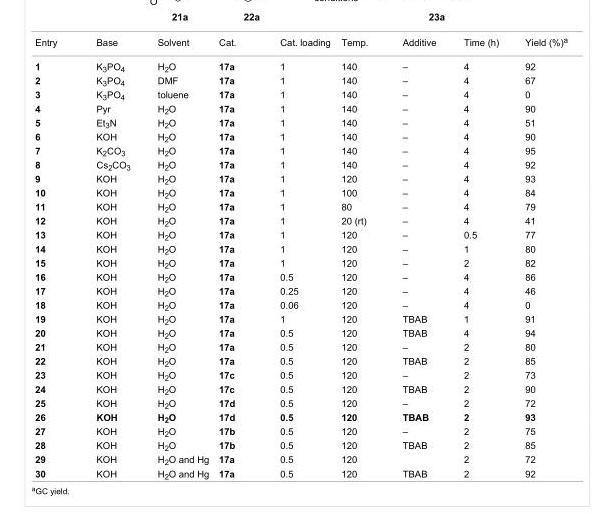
<table><tbody><tr><td>Entry</td><td>Base</td><td>Solvent</td><td>Cat.</td><td>Cat. loading</td><td>Temp.</td><td>Additive</td><td>Time (h)</td><td>Yield (%)<sup>a</sup></td></tr><tr><td>1</td><td>K<sub>3</sub>PO<sub>4</sub></td><td>H<sub>2</sub>O</td><td>17a</td><td>1</td><td>140</td><td>–</td><td>4</td><td>92</td></tr><tr><td>2</td><td>K<sub>3</sub>PO<sub>4</sub></td><td>DMF</td><td>17a</td><td>1</td><td>140</td><td>–</td><td>4</td><td>67</td></tr><tr><td>3</td><td>K<sub>3</sub>PO<sub>4</sub></td><td>toluene</td><td>17a</td><td>1</td><td>140</td><td>–</td><td>4</td><td>0</td></tr><tr><td>4</td><td>Pyr</td><td>H<sub>2</sub>O</td><td>17a</td><td>1</td><td>140</td><td>–</td><td>4</td><td>90</td></tr><tr><td>5</td><td>Et<sub>3</sub>N</td><td>H<sub>2</sub>O</td><td>17a</td><td>1</td><td>140</td><td>–</td><td>4</td><td>51</td></tr><tr><td>6</td><td>KOH</td><td>H<sub>2</sub>O</td><td>17a</td><td>1</td><td>140</td><td>–</td><td>4</td><td>90</td></tr><tr><td>7</td><td>K<sub>2</sub>CO<sub>3</sub></td><td>H<sub>2</sub>O</td><td>17a</td><td>1</td><td>140</td><td>–</td><td>4</td><td>95</td></tr><tr><td>8</td><td>Cs<sub>2</sub>CO<sub>3</sub></td><td>H<sub>2</sub>O</td><td>17a</td><td>1</td><td>140</td><td>–</td><td>4</td><td>92</td></tr><tr><td>9</td><td>KOH</td><td>H<sub>2</sub>O</td><td>17a</td><td>1</td><td>120</td><td>–</td><td>4</td><td>93</td></tr><tr><td>10</td><td>KOH</td><td>H<sub>2</sub>O</td><td>17a</td><td>1</td><td>100</td><td>–</td><td>4</td><td>84</td></tr><tr><td>11</td><td>KOH</td><td>H<sub>2</sub>O</td><td>17a</td><td>1</td><td>80</td><td>–</td><td>4</td><td>79</td></tr><tr><td>12</td><td>KOH</td><td>H<sub>2</sub>O</td><td>17a</td><td>1</td><td>20 (rt)</td><td>–</td><td>4</td><td>41</td></tr><tr><td>13</td><td>KOH</td><td>H<sub>2</sub>O</td><td>17a</td><td>1</td><td>120</td><td>–</td><td>0.5</td><td>77</td></tr><tr><td>14</td><td>KOH</td><td>H<sub>2</sub>O</td><td>17a</td><td>1</td><td>120</td><td>–</td><td>1</td><td>80</td></tr><tr><td>15</td><td>KOH</td><td>H<sub>2</sub>O</td><td>17a</td><td>1</td><td>120</td><td>–</td><td>2</td><td>82</td></tr><tr><td>16</td><td>KOH</td><td>H<sub>2</sub>O</td><td>17a</td><td>0.5</td><td>120</td><td>–</td><td>4</td><td>86</td></tr><tr><td>17</td><td>KOH</td><td>H<sub>2</sub>O</td><td>17a</td><td>0.25</td><td>120</td><td>–</td><td>4</td><td>46</td></tr><tr><td>18</td><td>KOH</td><td>H<sub>2</sub>O</td><td>17a</td><td>0.06</td><td>120</td><td>–</td><td>4</td><td>0</td></tr><tr><td>19</td><td>KOH</td><td>H<sub>2</sub>O</td><td>17a</td><td>1</td><td>120</td><td>TBAB</td><td>1</td><td>91</td></tr><tr><td>20</td><td>KOH</td><td>H<sub>2</sub>O</td><td>17a</td><td>0.5</td><td>120</td><td>TBAB</td><td>4</td><td>94</td></tr><tr><td>21</td><td>KOH</td><td>H<sub>2</sub>O</td><td>17a</td><td>0.5</td><td>120</td><td>–</td><td>2</td><td>80</td></tr><tr><td>22</td><td>KOH</td><td>H<sub>2</sub>O</td><td>17a</td><td>0.5</td><td>120</td><td>TBAB</td><td>2</td><td>85</td></tr><tr><td>23</td><td>KOH</td><td>H<sub>2</sub>O</td><td>17c</td><td>0.5</td><td>120</td><td>–</td><td>2</td><td>73</td></tr><tr><td>24</td><td>KOH</td><td>H<sub>2</sub>O</td><td>17c</td><td>0.5</td><td>120</td><td>TBAB</td><td>2</td><td>90</td></tr><tr><td>25</td><td>KOH</td><td>H<sub>2</sub>O</td><td>17d</td><td>0.5</td><td>120</td><td>–</td><td>2</td><td>72</td></tr><tr><td>26</td><td>KOH</td><td>H<sub>2</sub>O</td><td>17d</td><td>0.5</td><td>120</td><td>TBAB</td><td>2</td><td>93</td></tr><tr><td>27</td><td>KOH</td><td>H<sub>2</sub>O</td><td>17b</td><td>0.5</td><td>120</td><td>–</td><td>2</td><td>75</td></tr><tr><td>28</td><td>KOH</td><td>H<sub>2</sub>O</td><td>17b</td><td>0.5</td><td>120</td><td>TBAB</td><td>2</td><td>85</td></tr><tr><td>29</td><td>KOH</td><td>H<sub>2</sub>O and Hg</td><td>17a</td><td>0.5</td><td>120</td><td></td><td>2</td><td>72</td></tr><tr><td>30</td><td>KOH</td><td>H<sub>2</sub>O and Hg</td><td>17a</td><td>0.5</td><td>120</td><td>TBAB</td><td>2</td><td>92</td></tr></tbody></table>